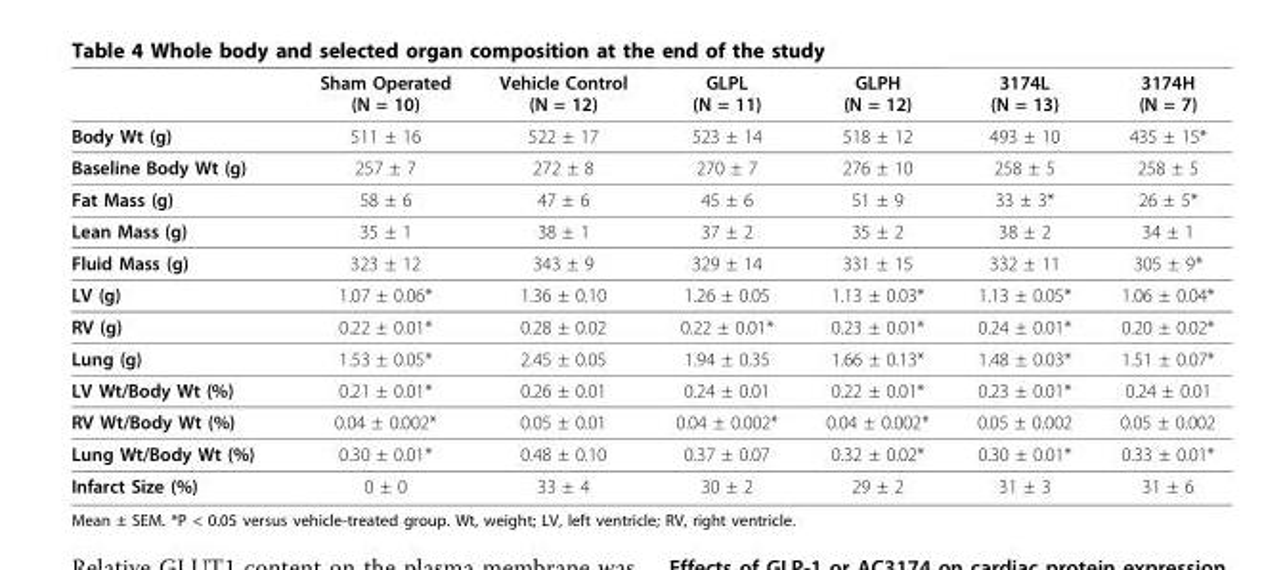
<table><thead><tr><td></td><td>Sham Operated (N = 10)</td><td>Vehicle Control (N = 12)</td><td>GLPL (N = 11)</td><td>GLPH (N = 12)</td><td>3174L (N = 13)</td><td>3174H (N = 7)</td></tr></thead><tbody><tr><td>Body Wt (g)</td><td>511 ± 16</td><td>522 ± 17</td><td>523 ± 14</td><td>518 ± 12</td><td>493 ± 10</td><td>435 ± 15*</td></tr><tr><td>Baseline Body Wt (g)</td><td>257 ± 7</td><td>272 ± 8</td><td>270 ± 7</td><td>276 ± 10</td><td>258 ± 5</td><td>258 ± 5</td></tr><tr><td>Fat Mass (g)</td><td>58 ± 6</td><td>47 ± 6</td><td>45 ± 6</td><td>51 ± 9</td><td>33 ± 3*</td><td>26 ± 5*</td></tr><tr><td>Lean Mass (g)</td><td>35 ± 1</td><td>38 ± 1</td><td>37 ± 2</td><td>35 ± 2</td><td>38 ± 2</td><td>34 ± 1</td></tr><tr><td>Fluid Mass (g)</td><td>323 ± 12</td><td>343 ± 9</td><td>329 ± 14</td><td>331 ± 15</td><td>332 ± 11</td><td>305 ± 9*</td></tr><tr><td>LV (g)</td><td>1.07 ± 0.06*</td><td>1.36 ± 0.10</td><td>1.26 ± 0.05</td><td>1.13 ± 0.03*</td><td>1.13 ± 0.05*</td><td>1.06 ± 0.04*</td></tr><tr><td>RV (g)</td><td>0.22 ± 0.01*</td><td>0.28 ± 0.02</td><td>0.22 ± 0.01*</td><td>0.23 ± 0.01*</td><td>0.24 ± 0.01*</td><td>0.20 ± 0.02*</td></tr><tr><td>Lung (g)</td><td>1.53 ± 0.05*</td><td>2.45 ± 0.05</td><td>1.94 ± 0.35</td><td>1.66 ± 0.13*</td><td>1.48 ± 0.03*</td><td>1.51 ± 0.07*</td></tr><tr><td>LV Wt/Body Wt (%)</td><td>0.21 ± 0.01*</td><td>0.26 ± 0.01</td><td>0.24 ± 0.01</td><td>0.22 ± 0.01*</td><td>0.23 ± 0.01*</td><td>0.24 ± 0.01</td></tr><tr><td>RV Wt/Body Wt (%)</td><td>0.04 ± 0.002*</td><td>0.05 ± 0.01</td><td>0.04 ± 0.002*</td><td>0.04 ± 0.002*</td><td>0.05 ± 0.002</td><td>0.05 ± 0.002</td></tr><tr><td>Lung Wt/Body Wt (%)</td><td>0.30 ± 0.01*</td><td>0.48 ± 0.10</td><td>0.37 ± 0.07</td><td>0.32 ± 0.02*</td><td>0.30 ± 0.01*</td><td>0.33 ± 0.01*</td></tr><tr><td>Infarct Size (%)</td><td>0 ± 0</td><td>33 ± 4</td><td>30 ± 2</td><td>29 ± 2</td><td>31 ± 3</td><td>31 ± 6</td></tr></tbody></table>